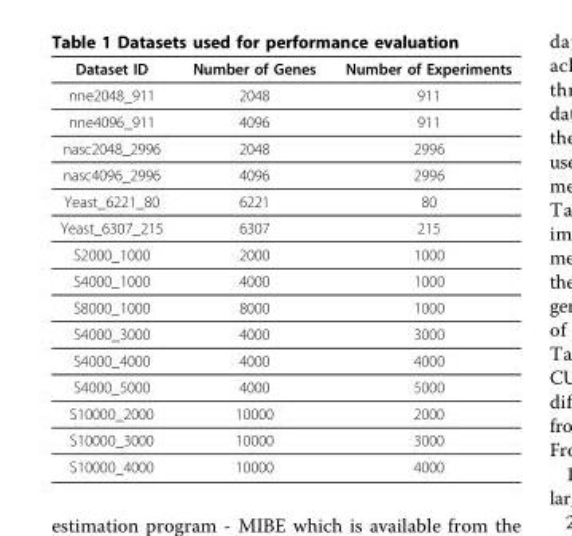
<table><thead><tr><td>Dataset ID</td><td>Number of Genes</td><td>Number of Experiments</td></tr></thead><tbody><tr><td>nne2048_911</td><td>2048</td><td>911</td></tr><tr><td>nne4096_911</td><td>4096</td><td>911</td></tr><tr><td>nasc2048_2996</td><td>2048</td><td>2996</td></tr><tr><td>nasc4096_2996</td><td>4096</td><td>2996</td></tr><tr><td>Yeast_6221_80</td><td>6221</td><td>80</td></tr><tr><td>Yeast_6307_215</td><td>6307</td><td>215</td></tr><tr><td>S2000_1000</td><td>2000</td><td>1000</td></tr><tr><td>S4000_1000</td><td>4000</td><td>1000</td></tr><tr><td>S8000_1000</td><td>8000</td><td>1000</td></tr><tr><td>S4000_3000</td><td>4000</td><td>3000</td></tr><tr><td>S4000_4000</td><td>4000</td><td>4000</td></tr><tr><td>S4000_5000</td><td>4000</td><td>5000</td></tr><tr><td>S10000_2000</td><td>10000</td><td>2000</td></tr><tr><td>S10000_3000</td><td>10000</td><td>3000</td></tr><tr><td>S10000_4000</td><td>10000</td><td>4000</td></tr></tbody></table>